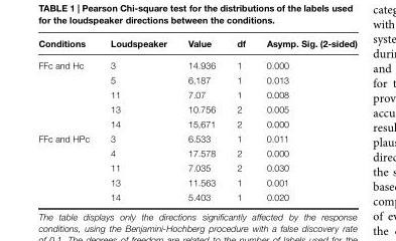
<table><thead><tr><td>Conditions</td><td>Loudspeaker</td><td>Value</td><td>df</td><td>Asymp. Sig. (2-sided)</td></tr></thead><tbody><tr><td rowspan="5">FFc and Hc</td><td>3</td><td>14.936</td><td>1</td><td>0.000</td></tr><tr><td>5</td><td>6,187</td><td>1</td><td>0.013</td></tr><tr><td>11</td><td>7.07</td><td>1</td><td>0.008</td></tr><tr><td>13</td><td>10.756</td><td>2</td><td>0.005</td></tr><tr><td>14</td><td>15,671</td><td>2</td><td>0.000</td></tr><tr><td rowspan="5">FFc and HPc</td><td>3</td><td>6.533</td><td>1</td><td>0.011</td></tr><tr><td>4</td><td>17.578</td><td>2</td><td>0.000</td></tr><tr><td>11</td><td>7.035</td><td>2</td><td>0.030</td></tr><tr><td>13</td><td>11.563</td><td>1</td><td>0.001</td></tr><tr><td>14</td><td>5.403</td><td>1</td><td>0.020</td></tr></tbody></table>